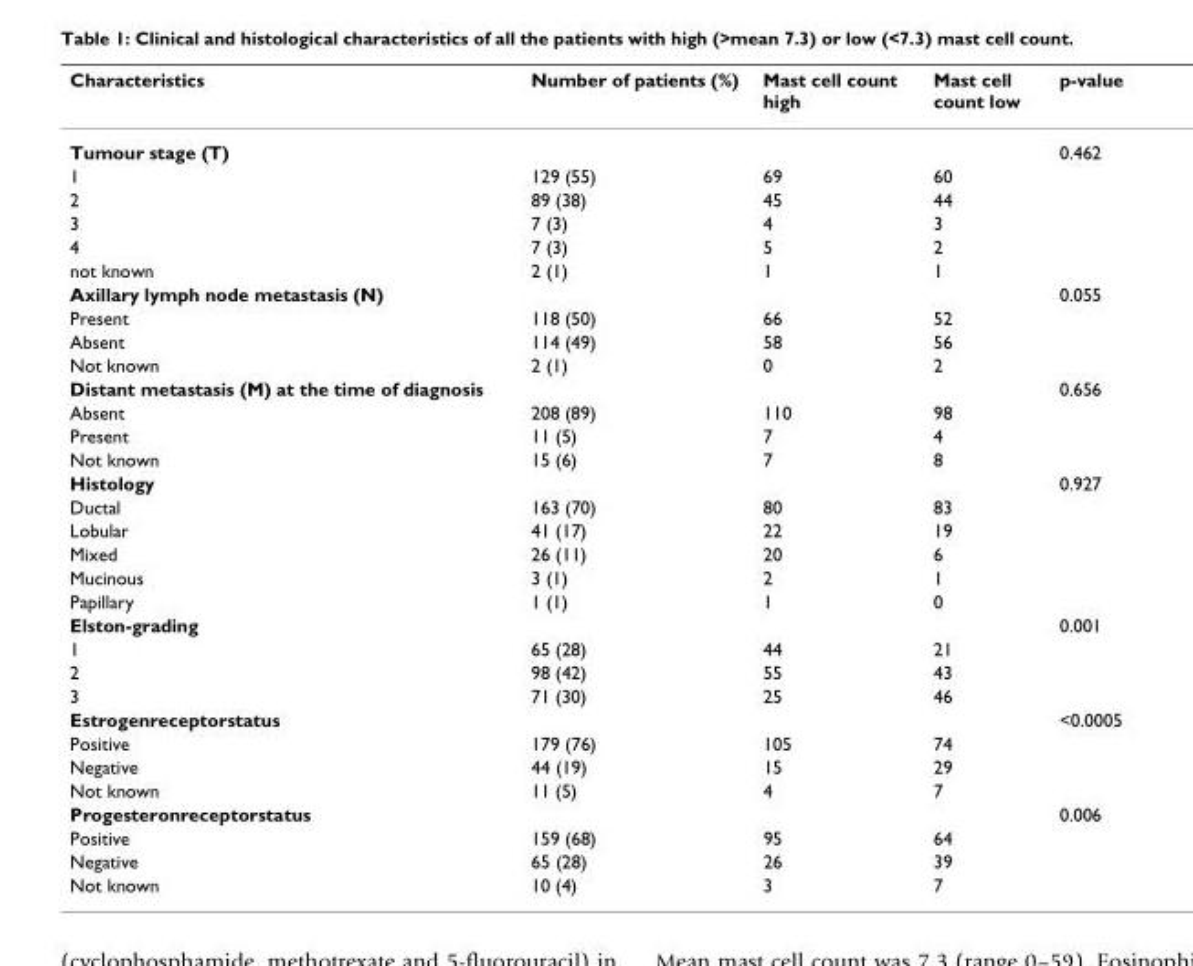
<table><thead><tr><td>Characteristics</td><td>Number of patients (%)</td><td>Mast cell count high</td><td>Mast cell count low</td><td>p-value</td></tr></thead><tbody><tr><td>Tumour stage (T)</td><td></td><td></td><td></td><td>0.462</td></tr><tr><td>1</td><td>129 (55)</td><td>69</td><td>60</td><td></td></tr><tr><td>2</td><td>89 (38)</td><td>45</td><td>44</td><td></td></tr><tr><td>3</td><td>7 (3)</td><td>4</td><td>3</td><td></td></tr><tr><td>4</td><td>7 (3)</td><td>5</td><td>2</td><td></td></tr><tr><td>not known</td><td>2 (1)</td><td>1</td><td>1</td><td></td></tr><tr><td>Axillary lymph node metastasis (N)</td><td></td><td></td><td></td><td>0.055</td></tr><tr><td>Present</td><td>118 (50)</td><td>66</td><td>52</td><td></td></tr><tr><td>Absent</td><td>114 (49)</td><td>58</td><td>56</td><td></td></tr><tr><td>Not known</td><td>2 (1)</td><td>0</td><td>2</td><td></td></tr><tr><td>Distant metastasis (M) at the time of diagnosis</td><td></td><td></td><td></td><td>0.656</td></tr><tr><td>Absent</td><td>208 (89)</td><td>110</td><td>98</td><td></td></tr><tr><td>Present</td><td>11 (5)</td><td>7</td><td>4</td><td></td></tr><tr><td>Not known</td><td>15 (6)</td><td>7</td><td>8</td><td></td></tr><tr><td>Histology</td><td></td><td></td><td></td><td>0.927</td></tr><tr><td>Ductal</td><td>163 (70)</td><td>80</td><td>83</td><td></td></tr><tr><td>Lobular</td><td>41 (17)</td><td>22</td><td>19</td><td></td></tr><tr><td>Mixed</td><td>26 (11)</td><td>20</td><td>6</td><td></td></tr><tr><td>Mucinous</td><td>3 (1)</td><td>2</td><td>1</td><td></td></tr><tr><td>Papillary</td><td>1 (1)</td><td>1</td><td>0</td><td></td></tr><tr><td>Elston-grading</td><td></td><td></td><td></td><td>0.001</td></tr><tr><td>1</td><td>65 (28)</td><td>44</td><td>21</td><td></td></tr><tr><td>2</td><td>98 (42)</td><td>55</td><td>43</td><td></td></tr><tr><td>3</td><td>71 (30)</td><td>25</td><td>46</td><td></td></tr><tr><td>Estrogenreceptorstatus</td><td></td><td></td><td></td><td>&lt;0.0005</td></tr><tr><td>Positive</td><td>179 (76)</td><td>105</td><td>74</td><td></td></tr><tr><td>Negative</td><td>44 (19)</td><td>15</td><td>29</td><td></td></tr><tr><td>Not known</td><td>11 (5)</td><td>4</td><td>7</td><td></td></tr><tr><td>Progesteronreceptorstatus</td><td></td><td></td><td></td><td>0.006</td></tr><tr><td>Positive</td><td>159 (68)</td><td>95</td><td>64</td><td></td></tr><tr><td>Negative</td><td>65 (28)</td><td>26</td><td>39</td><td></td></tr><tr><td>Not known</td><td>10 (4)</td><td>3</td><td>7</td><td></td></tr></tbody></table>